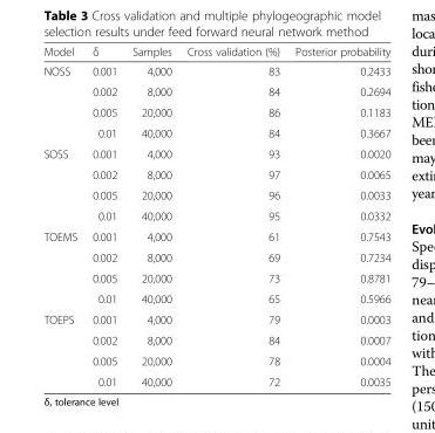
<table><thead><tr><td>Model</td><td>δ</td><td>Samples</td><td>Cross validation (%)</td><td>Posterior probability</td></tr></thead><tbody><tr><td rowspan="4">NOSS</td><td>0.001</td><td>4,000</td><td>83</td><td>0.2433</td></tr><tr><td>0.002</td><td>8,000</td><td>84</td><td>0.2694</td></tr><tr><td>0.005</td><td>20,000</td><td>86</td><td>0.1183</td></tr><tr><td>0.01</td><td>40,000</td><td>84</td><td>0.3667</td></tr><tr><td rowspan="4">SOSS</td><td>0.001</td><td>4,000</td><td>93</td><td>0.0020</td></tr><tr><td>0.002</td><td>8,000</td><td>97</td><td>0.0065</td></tr><tr><td>0.005</td><td>20,000</td><td>96</td><td>0.0033</td></tr><tr><td>0.01</td><td>40,000</td><td>95</td><td>0.0332</td></tr><tr><td rowspan="4">TOEMS</td><td>0.001</td><td>4,000</td><td>61</td><td>0.7543</td></tr><tr><td>0.002</td><td>8,000</td><td>69</td><td>0.7234</td></tr><tr><td>0.005</td><td>20,000</td><td>73</td><td>0.8781</td></tr><tr><td>0.01</td><td>40,000</td><td>65</td><td>0.5966</td></tr><tr><td rowspan="4">TOEPS</td><td>0.001</td><td>4,000</td><td>79</td><td>0.0003</td></tr><tr><td>0.002</td><td>8,000</td><td>84</td><td>0.0007</td></tr><tr><td>0.005</td><td>20,000</td><td>78</td><td>0.0004</td></tr><tr><td>0.01</td><td>40,000</td><td>72</td><td>0.0035</td></tr></tbody></table>